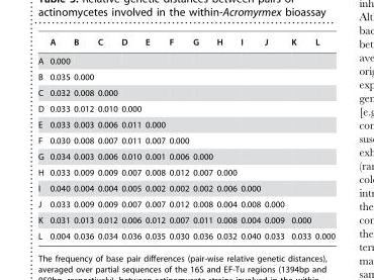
<table><thead><tr><td></td><td>A</td><td>B</td><td>C</td><td>D</td><td>E</td><td>F</td><td>G</td><td>H</td><td>I</td><td>J</td><td>K</td><td>L</td></tr></thead><tbody><tr><td>A</td><td>0.000</td><td></td><td></td><td></td><td></td><td></td><td></td><td></td><td></td><td></td><td></td><td></td></tr><tr><td>B</td><td>0.035</td><td>0.000</td><td></td><td></td><td></td><td></td><td></td><td></td><td></td><td></td><td></td><td></td></tr><tr><td>C</td><td>0.032</td><td>0.008</td><td>0.000</td><td></td><td></td><td></td><td></td><td></td><td></td><td></td><td></td><td></td></tr><tr><td>D</td><td>0.033</td><td>0.012</td><td>0.010</td><td>0.000</td><td></td><td></td><td></td><td></td><td></td><td></td><td></td><td></td></tr><tr><td>E</td><td>0.033</td><td>0.003</td><td>0.006</td><td>0.011</td><td>0.000</td><td></td><td></td><td></td><td></td><td></td><td></td><td></td></tr><tr><td>F</td><td>0.030</td><td>0.008</td><td>0.007</td><td>0.011</td><td>0.007</td><td>0.000</td><td></td><td></td><td></td><td></td><td></td><td></td></tr><tr><td>G</td><td>0.034</td><td>0.003</td><td>0.006</td><td>0.010</td><td>0.001</td><td>0.006</td><td>0.000</td><td></td><td></td><td></td><td></td><td></td></tr><tr><td>H</td><td>0.033</td><td>0.009</td><td>0.009</td><td>0.007</td><td>0.008</td><td>0.012</td><td>0.007</td><td>0.000</td><td></td><td></td><td></td><td></td></tr><tr><td>I</td><td>0.040</td><td>0.004</td><td>0.004</td><td>0.005</td><td>0.002</td><td>0.002</td><td>0.002</td><td>0.006</td><td>0.000</td><td></td><td></td><td></td></tr><tr><td>J</td><td>0.033</td><td>0.009</td><td>0.009</td><td>0.007</td><td>0.007</td><td>0.012</td><td>0.008</td><td>0.004</td><td>0.008</td><td>0.000</td><td></td><td></td></tr><tr><td>K</td><td>0.031</td><td>0.013</td><td>0.012</td><td>0.006</td><td>0.012</td><td>0.007</td><td>0.011</td><td>0.008</td><td>0.004</td><td>0.009</td><td>0.000</td><td></td></tr><tr><td>L</td><td>0.004</td><td>0.036</td><td>0.034</td><td>0.036</td><td>0.035</td><td>0.030</td><td>0.036</td><td>0.032</td><td>0.040</td><td>0.033</td><td>0.033</td><td>0.000</td></tr></tbody></table>